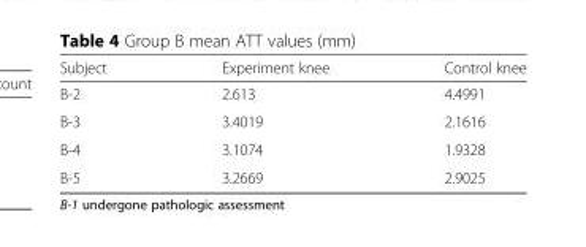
<table><thead><tr><td>Subject</td><td>Experiment knee</td><td>Control knee</td></tr></thead><tbody><tr><td>B-2</td><td>2.613</td><td>4.4991</td></tr><tr><td>B-3</td><td>3.4019</td><td>2.1616</td></tr><tr><td>B-4</td><td>3.1074</td><td>1.9328</td></tr><tr><td>B-5</td><td>3.2669</td><td>2.9025</td></tr></tbody></table>